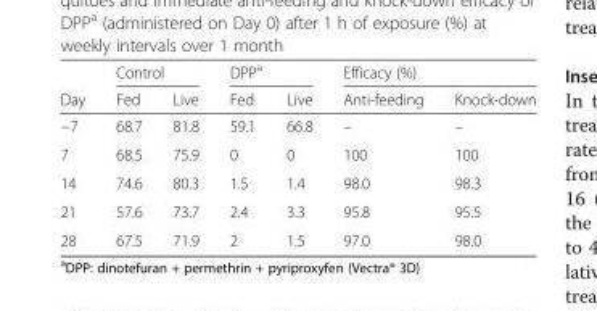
<table><thead><tr><td rowspan="2">Day</td><td colspan="2">Control</td><td colspan="2">DPP<sup>a</sup></td><td colspan="2">Efficacy (%)</td></tr><tr><td>Fed</td><td>Live</td><td>Fed</td><td>Live</td><td>Anti-feeding</td><td>Knock-down</td></tr></thead><tbody><tr><td>−7</td><td>68.7</td><td>81.8</td><td>59.1</td><td>66.8</td><td>–</td><td>–</td></tr><tr><td>7</td><td>68.5</td><td>75.9</td><td>0</td><td>0</td><td>100</td><td>100</td></tr><tr><td>14</td><td>74.6</td><td>80.3</td><td>1.5</td><td>1.4</td><td>98.0</td><td>98.3</td></tr><tr><td>21</td><td>57.6</td><td>73.7</td><td>2.4</td><td>3.3</td><td>95.8</td><td>95.5</td></tr><tr><td>28</td><td>67.5</td><td>71.9</td><td>2</td><td>1.5</td><td>97.0</td><td>98.0</td></tr></tbody></table>